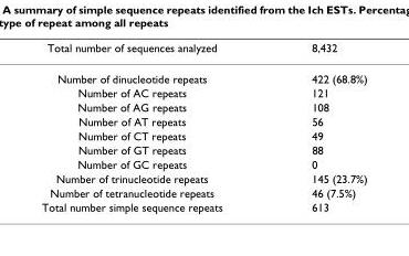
<table><thead><tr><td>Total number of sequences analyzed</td><td>8,432</td></tr></thead><tbody><tr><td>Number of dinucleotide repeats</td><td>422 (68.8%)</td></tr><tr><td>Number of AC repeats</td><td>121</td></tr><tr><td>Number of AG repeats</td><td>108</td></tr><tr><td>Number of AT repeats</td><td>56</td></tr><tr><td>Number of CT repeats</td><td>49</td></tr><tr><td>Number of GT repeats</td><td>88</td></tr><tr><td>Number of GC repeats</td><td>0</td></tr><tr><td>Number of trinucleotide repeats</td><td>145 (23.7%)</td></tr><tr><td>Number of tetranucleotide repeats</td><td>46 (7.5%)</td></tr><tr><td>Total number simple sequence repeats</td><td>613</td></tr></tbody></table>